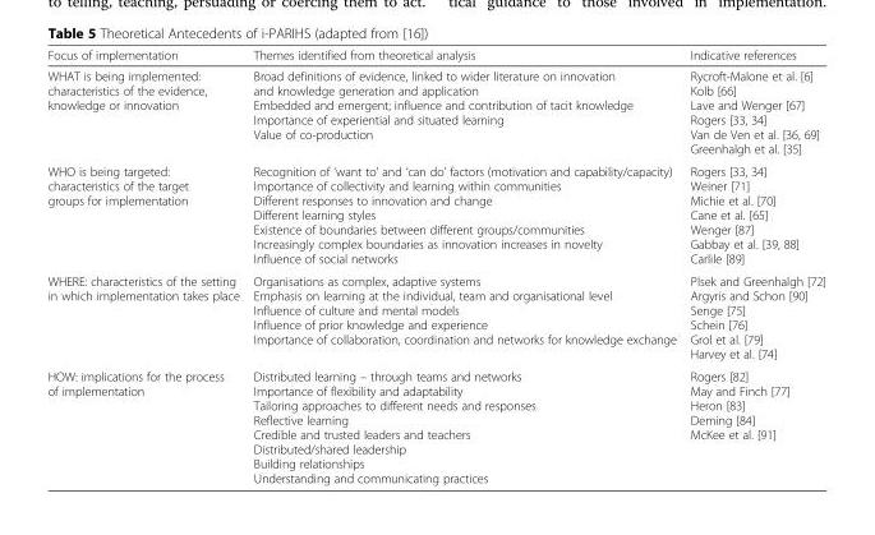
<table><thead><tr><td>Focus of implementation</td><td>Themes identified from theoretical analysis</td><td>Indicative references</td></tr></thead><tbody><tr><td>WHAT is being implemented: characteristics of the evidence, knowledge or innovation</td><td>Broad definitions of evidence, linked to wider literature on innovation and knowledge generation and application Embedded and emergent; influence and contribution of tacit knowledge Importance of experiential and situated learning Value of co-production</td><td>Rycroft-Malone et al. [6] Kolb [66] Lave and Wenger [67] Rogers [33, 34] Van de Ven et al. [36, 69] Greenhalgh et al. [35]</td></tr><tr><td>WHO is being targeted: characteristics of the target groups for implementation</td><td>Recognition of ‘want to’ and ‘can do’ factors (motivation and capability/capacity) Importance of collectivity and learning within communities Different responses to innovation and change Different learning styles Existence of boundaries between different groups/communities Increasingly complex boundaries as innovation increases in novelty Influence of social networks</td><td>Rogers [33, 34] Weiner [71] Michie et al. [70] Cane et al. [65] Wenger [87] Gabbay et al. [39, 88] Carlile [89]</td></tr><tr><td>WHERE: characteristics of the setting in which implementation takes place</td><td>Organisations as complex, adaptive systems Emphasis on learning at the individual, team and organisational level Influence of culture and mental models Influence of prior knowledge and experience Importance of collaboration, coordination and networks for knowledge exchange</td><td>Plsek and Greenhalgh [72] Argyris and Schon [90] Senge [75] Schein [76] Grol et al. [79] Harvey et al. [74]</td></tr><tr><td>HOW: implications for the process of implementation</td><td>Distributed learning – through teams and networks Importance of flexibility and adaptability Tailoring approaches to different needs and responses Reflective learning Credible and trusted leaders and teachers Distributed/shared leadership Building relationships Understanding and communicating practices</td><td>Rogers [82] May and Finch [77] Heron [83] Deming [84] McKee et al. [91]</td></tr></tbody></table>